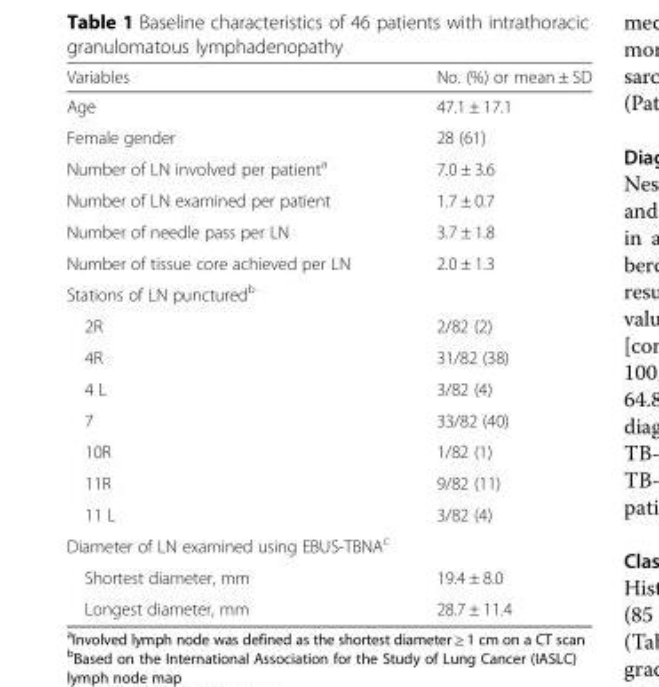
<table><thead><tr><td>Variables</td><td>No. (%) or mean ± SD</td></tr></thead><tbody><tr><td>Age</td><td>47.1 ± 17.1</td></tr><tr><td>Female gender</td><td>28 (61)</td></tr><tr><td>Number of LN involved per patient<sup>a</sup></td><td>7.0 ± 3.6</td></tr><tr><td>Number of LN examined per patient</td><td>1.7 ± 0.7</td></tr><tr><td>Number of needle pass per LN</td><td>3.7 ± 1.8</td></tr><tr><td>Number of tissue core achieved per LN</td><td>2.0 ± 1.3</td></tr><tr><td colspan="2">Stations of LN punctured<sup>b</sup></td></tr><tr><td>2R</td><td>2/82 (2)</td></tr><tr><td>4R</td><td>31/82 (38)</td></tr><tr><td>4 L</td><td>3/82 (4)</td></tr><tr><td>7</td><td>33/82 (40)</td></tr><tr><td>10R</td><td>1/82 (1)</td></tr><tr><td>11R</td><td>9/82 (11)</td></tr><tr><td>11 L</td><td>3/82 (4)</td></tr><tr><td colspan="2">Diameter of LN examined using EBUS-TBNA<sup>c</sup></td></tr><tr><td>Shortest diameter, mm</td><td>19.4 ± 8.0</td></tr><tr><td>Longest diameter, mm</td><td>28.7 ± 11.4</td></tr></tbody></table>